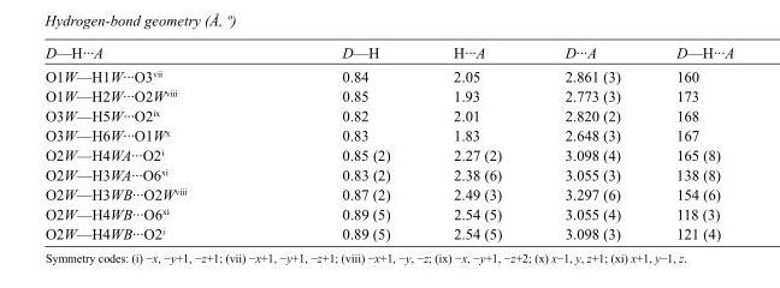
<table><tbody><tr><td>D—H···A</td><td>D—H</td><td>H···A</td><td>D···A</td><td>D—H···A</td></tr><tr><td>O1W—H1W···O3<sup>vii</sup></td><td>0.84</td><td>2.05</td><td>2.861 (3)</td><td>160</td></tr><tr><td>O1W—H2W···O2W<sup>viii</sup></td><td>0.85</td><td>1.93</td><td>2.773 (3)</td><td>173</td></tr><tr><td>O3W—H5W···O2<sup>ix</sup></td><td>0.82</td><td>2.01</td><td>2.820 (2)</td><td>168</td></tr><tr><td>O3W—H6W···O1W<sup>x</sup></td><td>0.83</td><td>1.83</td><td>2.648 (3)</td><td>167</td></tr><tr><td>O2W—H4WA···O2<sup>i</sup></td><td>0.85 (2)</td><td>2.27 (2)</td><td>3.098 (4)</td><td>165 (8)</td></tr><tr><td>O2W—H3WA···O6<sup>xi</sup></td><td>0.83 (2)</td><td>2.38 (6)</td><td>3.055 (3)</td><td>138 (8)</td></tr><tr><td>O2W—H3WB···O2W<sup>viii</sup></td><td>0.87 (2)</td><td>2.49 (3)</td><td>3.297 (6)</td><td>154 (6)</td></tr><tr><td>O2W—H4WB···O6<sup>xi</sup></td><td>0.89 (5)</td><td>2.54 (5)</td><td>3.055 (4)</td><td>118 (3)</td></tr><tr><td>O2W—H4WB···O2<sup>i</sup></td><td>0.89 (5)</td><td>2.54 (5)</td><td>3.098 (3)</td><td>121 (4)</td></tr></tbody></table>